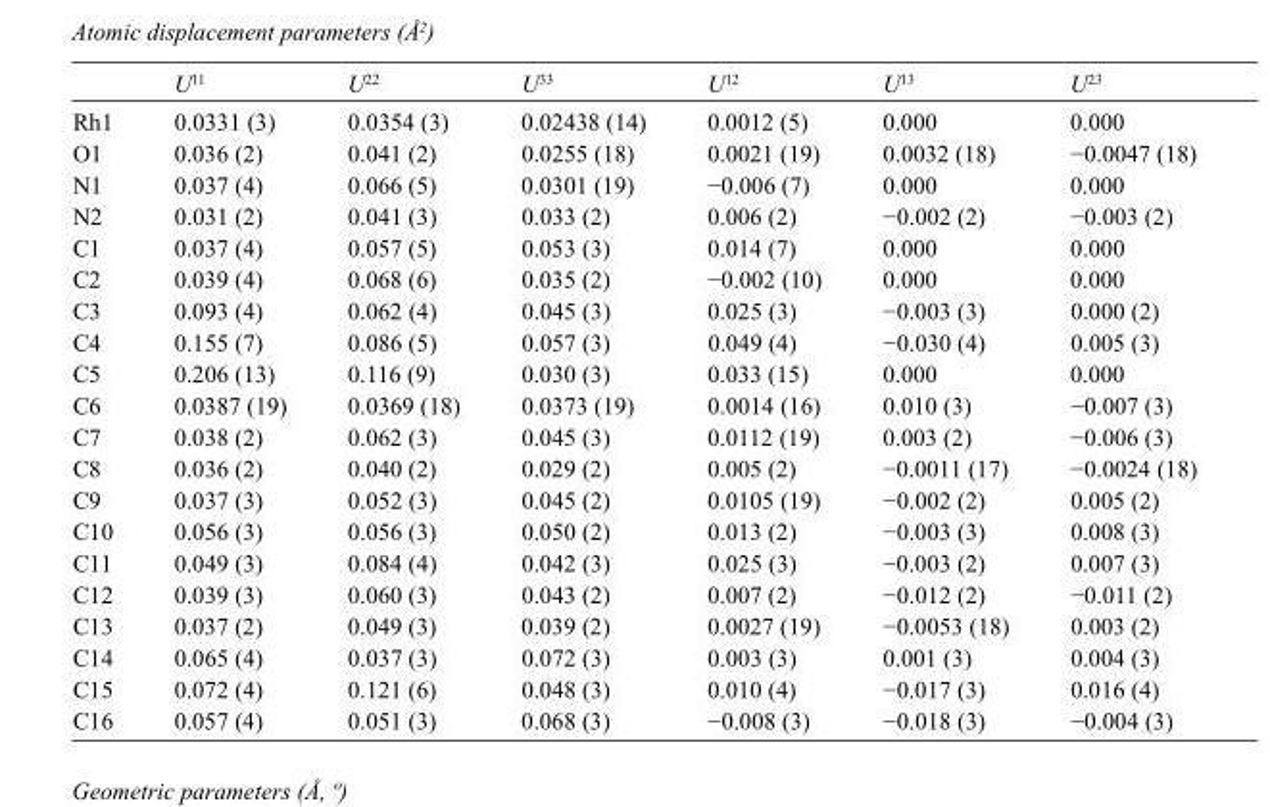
<table><thead><tr><td></td><td>U<sup>11</sup></td><td>U<sup>22</sup></td><td>U<sup>33</sup></td><td>U<sup>12</sup></td><td>U<sup>13</sup></td><td>U<sup>23</sup></td></tr></thead><tbody><tr><td>Rh1</td><td>0.0331 (3)</td><td>0.0354 (3)</td><td>0.02438 (14)</td><td>0.0012 (5)</td><td>0.000</td><td>0.000</td></tr><tr><td>O1</td><td>0.036 (2)</td><td>0.041 (2)</td><td>0.0255 (18)</td><td>0.0021 (19)</td><td>0.0032 (18)</td><td>−0.0047 (18)</td></tr><tr><td>N1</td><td>0.037 (4)</td><td>0.066 (5)</td><td>0.0301 (19)</td><td>−0.006 (7)</td><td>0.000</td><td>0.000</td></tr><tr><td>N2</td><td>0.031 (2)</td><td>0.041 (3)</td><td>0.033 (2)</td><td>0.006 (2)</td><td>−0.002 (2)</td><td>−0.003 (2)</td></tr><tr><td>C1</td><td>0.037 (4)</td><td>0.057 (5)</td><td>0.053 (3)</td><td>0.014 (7)</td><td>0.000</td><td>0.000</td></tr><tr><td>C2</td><td>0.039 (4)</td><td>0.068 (6)</td><td>0.035 (2)</td><td>−0.002 (10)</td><td>0.000</td><td>0.000</td></tr><tr><td>C3</td><td>0.093 (4)</td><td>0.062 (4)</td><td>0.045 (3)</td><td>0.025 (3)</td><td>−0.003 (3)</td><td>0.000 (2)</td></tr><tr><td>C4</td><td>0.155 (7)</td><td>0.086 (5)</td><td>0.057 (3)</td><td>0.049 (4)</td><td>−0.030 (4)</td><td>0.005 (3)</td></tr><tr><td>C5</td><td>0.206 (13)</td><td>0.116 (9)</td><td>0.030 (3)</td><td>0.033 (15)</td><td>0.000</td><td>0.000</td></tr><tr><td>C6</td><td>0.0387 (19)</td><td>0.0369 (18)</td><td>0.0373 (19)</td><td>0.0014 (16)</td><td>0.010 (3)</td><td>−0.007 (3)</td></tr><tr><td>C7</td><td>0.038 (2)</td><td>0.062 (3)</td><td>0.045 (3)</td><td>0.0112 (19)</td><td>0.003 (2)</td><td>−0.006 (3)</td></tr><tr><td>C8</td><td>0.036 (2)</td><td>0.040 (2)</td><td>0.029 (2)</td><td>0.005 (2)</td><td>−0.0011 (17)</td><td>−0.0024 (18)</td></tr><tr><td>C9</td><td>0.037 (3)</td><td>0.052 (3)</td><td>0.045 (2)</td><td>0.0105 (19)</td><td>−0.002 (2)</td><td>0.005 (2)</td></tr><tr><td>C10</td><td>0.056 (3)</td><td>0.056 (3)</td><td>0.050 (2)</td><td>0.013 (2)</td><td>−0.003 (3)</td><td>0.008 (3)</td></tr><tr><td>C11</td><td>0.049 (3)</td><td>0.084 (4)</td><td>0.042 (3)</td><td>0.025 (3)</td><td>−0.003 (2)</td><td>0.007 (3)</td></tr><tr><td>C12</td><td>0.039 (3)</td><td>0.060 (3)</td><td>0.043 (2)</td><td>0.007 (2)</td><td>−0.012 (2)</td><td>−0.011 (2)</td></tr><tr><td>C13</td><td>0.037 (2)</td><td>0.049 (3)</td><td>0.039 (2)</td><td>0.0027 (19)</td><td>−0.0053 (18)</td><td>0.003 (2)</td></tr><tr><td>C14</td><td>0.065 (4)</td><td>0.037 (3)</td><td>0.072 (3)</td><td>0.003 (3)</td><td>0.001 (3)</td><td>0.004 (3)</td></tr><tr><td>C15</td><td>0.072 (4)</td><td>0.121 (6)</td><td>0.048 (3)</td><td>0.010 (4)</td><td>−0.017 (3)</td><td>0.016 (4)</td></tr><tr><td>C16</td><td>0.057 (4)</td><td>0.051 (3)</td><td>0.068 (3)</td><td>−0.008 (3)</td><td>−0.018 (3)</td><td>−0.004 (3)</td></tr></tbody></table>